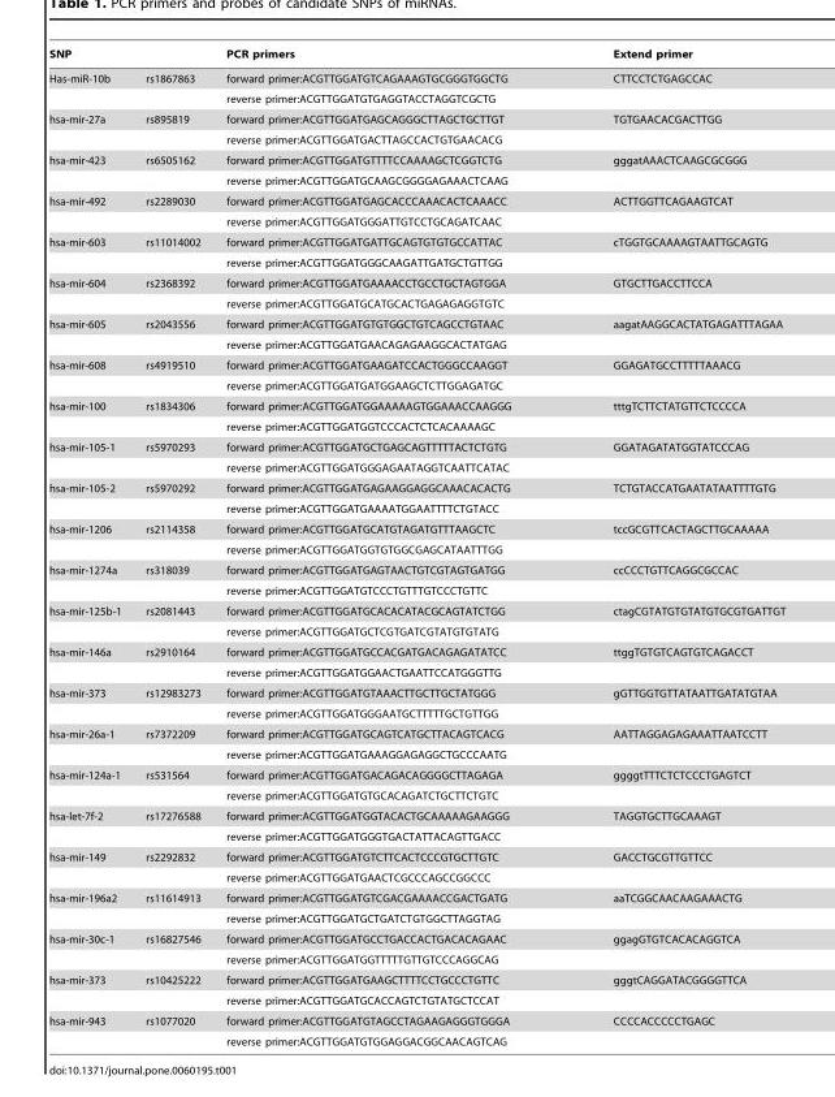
<table><thead><tr><td colspan="2">SNP</td><td rowspan="2">PCR primers forward primer:ACGTTGGATGTCAGAAAGTGCGGGTGGCTG</td><td rowspan="2">Extend primer CTTCCTCTGAGCCAC</td></tr><tr><td>Has-miR-10b</td><td>rs1867863</td></tr></thead><tbody><tr><td></td><td></td><td>reverse primer:ACGTTGGATGTGAGGTACCTAGGTCGCTG</td><td></td></tr><tr><td rowspan="2">hsa-mir-27a</td><td>rs895819</td><td>forward primer:ACGTTGGATGAGCAGGGCTTAGCTGCTTGT</td><td>TGTGAACACGACTTGG</td></tr><tr><td></td><td>reverse primer:ACGTTGGATGACTTAGCCACTGTGAACACG</td><td></td></tr><tr><td rowspan="2">hsa-mir-423</td><td>rs6505162</td><td>forward primer:ACGTTGGATGTTTTCCAAAAGCTCGGTCTG</td><td>gggatAAACTCAAGCGCGGG</td></tr><tr><td></td><td>reverse primer:ACGTTGGATGCAAGCGGGGAGAAACTCAAG</td><td></td></tr><tr><td rowspan="2">hsa-mir-492</td><td>rs2289030</td><td>forward primer:ACGTTGGATGAGCACCCAAACACTCAAACC</td><td>ACTTGGTTCAGAAGTCAT</td></tr><tr><td></td><td>reverse primer:ACGTTGGATGGGATTGTCCTGCAGATCAAC</td><td></td></tr><tr><td rowspan="2">hsa-mir-603</td><td>rs11014002</td><td>forward primer:ACGTTGGATGATTGCAGTGTGTGCCATTAC</td><td>cTGGTGCAAAAGTAATTGCAGTG</td></tr><tr><td></td><td>reverse primer:ACGTTGGATGGGCAAGATTGATGCTGTTGG</td><td></td></tr><tr><td rowspan="2">hsa-mir-604</td><td>rs2368392</td><td>forward primer:ACGTTGGATGAAAACCTGCCTGCTAGTGGA</td><td>GTGCTTGACCTTCCA</td></tr><tr><td></td><td>reverse primer:ACGTTGGATGCATGCACTGAGAGAGGTGTC</td><td></td></tr><tr><td rowspan="2">hsa-mir-605</td><td>rs2043556</td><td>forward primer:ACGTTGGATGTGTGGCTGTCAGCCTGTAAC</td><td>aagatAAGGCACTATGAGATTTAGAA</td></tr><tr><td></td><td>reverse primer:ACGTTGGATGAACAGAGAAGGCACTATGAG</td><td></td></tr><tr><td rowspan="2">hsa-mir-608</td><td>rs4919510</td><td>forward primer:ACGTTGGATGAAGATCCACTGGGCCAAGGT</td><td>GGAGATGCCTTTTTAAACG</td></tr><tr><td></td><td>reverse primer:ACGTTGGATGATGGAAGCTCTTGGAGATGC</td><td></td></tr><tr><td rowspan="2">hsa-mir-100</td><td>rs1834306</td><td>forward primer:ACGTTGGATGGAAAAAGTGGAAACCAAGGG</td><td>tttgTCTTCTATGTTCTCCCCA</td></tr><tr><td></td><td>reverse primer:ACGTTGGATGGTCCCACTCTCACAAAAGC</td><td></td></tr><tr><td rowspan="2">hsa-mir-105-1</td><td>rs5970293</td><td>forward primer:ACGTTGGATGCTGAGCAGTTTTTACTCTGTG</td><td>GGATAGATATGGTATCCCAG</td></tr><tr><td></td><td>reverse primer:ACGTTGGATGGGAGAATAGGTCAATTCATAC</td><td></td></tr><tr><td rowspan="2">hsa-mir-105-2</td><td>rs5970292</td><td>forward primer:ACGTTGGATGAGAAGGAGGCAAACACACTG</td><td>TCTGTACCATGAATATAATTTTGTG</td></tr><tr><td></td><td>reverse primer:ACGTTGGATGAAAATGGAATTTTCTGTACC</td><td></td></tr><tr><td rowspan="2">hsa-mir-1206</td><td>rs2114358</td><td>forward primer:ACGTTGGATGCATGTAGATGTTTAAGCTC</td><td>tccGCGTTCACTAGCTTGCAAAAA</td></tr><tr><td></td><td>reverse primer:ACGTTGGATGGTGTGGCGAGCATAATTTGG</td><td></td></tr><tr><td rowspan="2">hsa-mir-1274a</td><td>rs318039</td><td>forward primer:ACGTTGGATGAGTAACTGTCGTAGTGATGG</td><td>ccCCCTGTTCAGGCGCCAC</td></tr><tr><td></td><td>reverse primer:ACGTTGGATGTCCCTGTTTGTCCCTGTTC</td><td></td></tr><tr><td rowspan="2">hsa-mir-125b-1</td><td>rs2081443</td><td>forward primer:ACGTTGGATGCACACATACGCAGTATCTGG</td><td>ctagCGTATGTGTATGTGCGTGATTGT</td></tr><tr><td></td><td>reverse primer:ACGTTGGATGCTCGTGATCGTATGTGTATG</td><td></td></tr><tr><td rowspan="2">hsa-mir-146a</td><td>rs2910164</td><td>forward primer:ACGTTGGATGCCACGATGACAGAGATATCC</td><td>ttggTGTGTCAGTGTCAGACCT</td></tr><tr><td></td><td>reverse primer:ACGTTGGATGGAACTGAATTCCATGGGTTG</td><td></td></tr><tr><td rowspan="2">hsa-mir-373</td><td>rs12983273</td><td>forward primer:ACGTTGGATGTAAACTTGCTTGCTATGGG</td><td>gGTTGGTGTTATAATTGATATGTAA</td></tr><tr><td></td><td>reverse primer:ACGTTGGATGGGAATGCTTTTTGCTGTTGG</td><td></td></tr><tr><td rowspan="2">hsa-mir-26a-1</td><td>rs7372209</td><td>forward primer:ACGTTGGATGCAGTCATGCTTACAGTCACG</td><td>AATTAGGAGAGAAATTAATCCTT</td></tr><tr><td></td><td>reverse primer:ACGTTGGATGAAAGGAGAGGCTGCCCAATG</td><td></td></tr><tr><td rowspan="2">hsa-mir-124a-1</td><td>rs531564</td><td>forward primer:ACGTTGGATGACAGACAGGGGCTTAGAGA</td><td>ggggtTTTCTCTCCCTGAGTCT</td></tr><tr><td></td><td>reverse primer:ACGTTGGATGTGCACAGATCTGCTTCTGTC</td><td></td></tr><tr><td rowspan="2">hsa-let-7f-2</td><td>rs17276588</td><td>forward primer:ACGTTGGATGGTACACTGCAAAAAGAAGGG</td><td>TAGGTGCTTGCAAAGT</td></tr><tr><td></td><td>reverse primer:ACGTTGGATGGGTGACTATTACAGTTGACC</td><td></td></tr><tr><td rowspan="2">hsa-mir-149</td><td>rs2292832</td><td>forward primer:ACGTTGGATGTCTTCACTCCCGTGCTTGTC</td><td>GACCTGCGTTGTTCC</td></tr><tr><td></td><td>reverse primer:ACGTTGGATGAACTCGCCCAGCCGGCCC</td><td></td></tr><tr><td rowspan="2">hsa-mir-196a2</td><td>rs11614913</td><td>forward primer:ACGTTGGATGTCGACGAAAACCGACTGATG</td><td>aaTCGGCAACAAGAAACTG</td></tr><tr><td></td><td>reverse primer:ACGTTGGATGCTGATCTGTGGCTTAGGTAG</td><td></td></tr><tr><td rowspan="2">hsa-mir-30c-1</td><td>rs16827546</td><td>forward primer:ACGTTGGATGCCTGACCACTGACACAGAAC</td><td>ggagGTGTCACACAGGTCA</td></tr><tr><td></td><td>reverse primer:ACGTTGGATGGTTTTTGTTGTCCCAGGCAG</td><td></td></tr><tr><td rowspan="2">hsa-mir-373</td><td>rs10425222</td><td>forward primer:ACGTTGGATGAAGCTTTTCCTGCCCTGTTC</td><td>gggtCAGGATACGGGGTTCA</td></tr><tr><td></td><td>reverse primer:ACGTTGGATGCACCAGTCTGTATGCTCCAT</td><td></td></tr><tr><td rowspan="2">hsa-mir-943</td><td>rs1077020</td><td>forward primer:ACGTTGGATGTAGCCTAGAAGAGGGTGGGA</td><td>CCCCACCCCCTGAGC</td></tr><tr><td></td><td>reverse primer:ACGTTGGATGTGGAGGACGGCAACAGTCAG</td><td></td></tr></tbody></table>